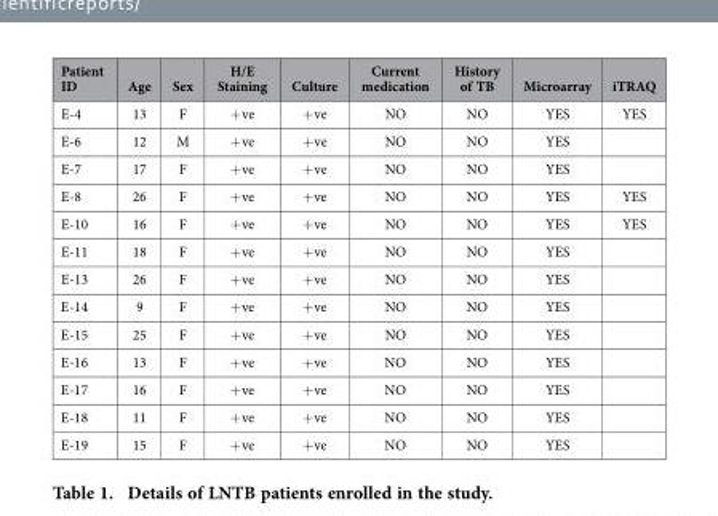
<table><thead><tr><td>Patient ID</td><td>Age</td><td>Sex</td><td>H/E Staining</td><td>Culture</td><td>Current medication</td><td>History of TB</td><td>Microarray</td><td>iTRAQ</td></tr></thead><tbody><tr><td>E-4</td><td>13</td><td>F</td><td>+ ve</td><td>+ ve</td><td>NO</td><td>NO</td><td>YES</td><td>YES</td></tr><tr><td>E-6</td><td>12</td><td>M</td><td>+ ve</td><td>+ ve</td><td>NO</td><td>NO</td><td>YES</td><td></td></tr><tr><td>E-7</td><td>17</td><td>F</td><td>+ ve</td><td>+ ve</td><td>NO</td><td>NO</td><td>YES</td><td></td></tr><tr><td>E-8</td><td>26</td><td>F</td><td>+ ve</td><td>+ ve</td><td>NO</td><td>NO</td><td>YES</td><td>YES</td></tr><tr><td>E-10</td><td>16</td><td>F</td><td>+ ve</td><td>+ ve</td><td>NO</td><td>NO</td><td>YES</td><td>YES</td></tr><tr><td>E-11</td><td>18</td><td>F</td><td>+ ve</td><td>+ ve</td><td>NO</td><td>NO</td><td>YES</td><td></td></tr><tr><td>E-13</td><td>26</td><td>F</td><td>+ ve</td><td>+ ve</td><td>NO</td><td>NO</td><td>YES</td><td></td></tr><tr><td>E-14</td><td>9</td><td>F</td><td>+ ve</td><td>+ ve</td><td>NO</td><td>NO</td><td>YES</td><td></td></tr><tr><td>E-15</td><td>25</td><td>F</td><td>+ ve</td><td>+ ve</td><td>NO</td><td>NO</td><td>YES</td><td></td></tr><tr><td>E-16</td><td>13</td><td>F</td><td>+ ve</td><td>+ ve</td><td>NO</td><td>NO</td><td>YES</td><td></td></tr><tr><td>E-17</td><td>16</td><td>F</td><td>+ ve</td><td>+ ve</td><td>NO</td><td>NO</td><td>YES</td><td></td></tr><tr><td>E-18</td><td>11</td><td>F</td><td>+ ve</td><td>+ ve</td><td>NO</td><td>NO</td><td>YES</td><td></td></tr><tr><td>E-19</td><td>15</td><td>F</td><td>+ ve</td><td>+ ve</td><td>NO</td><td>NO</td><td>YES</td><td></td></tr></tbody></table>